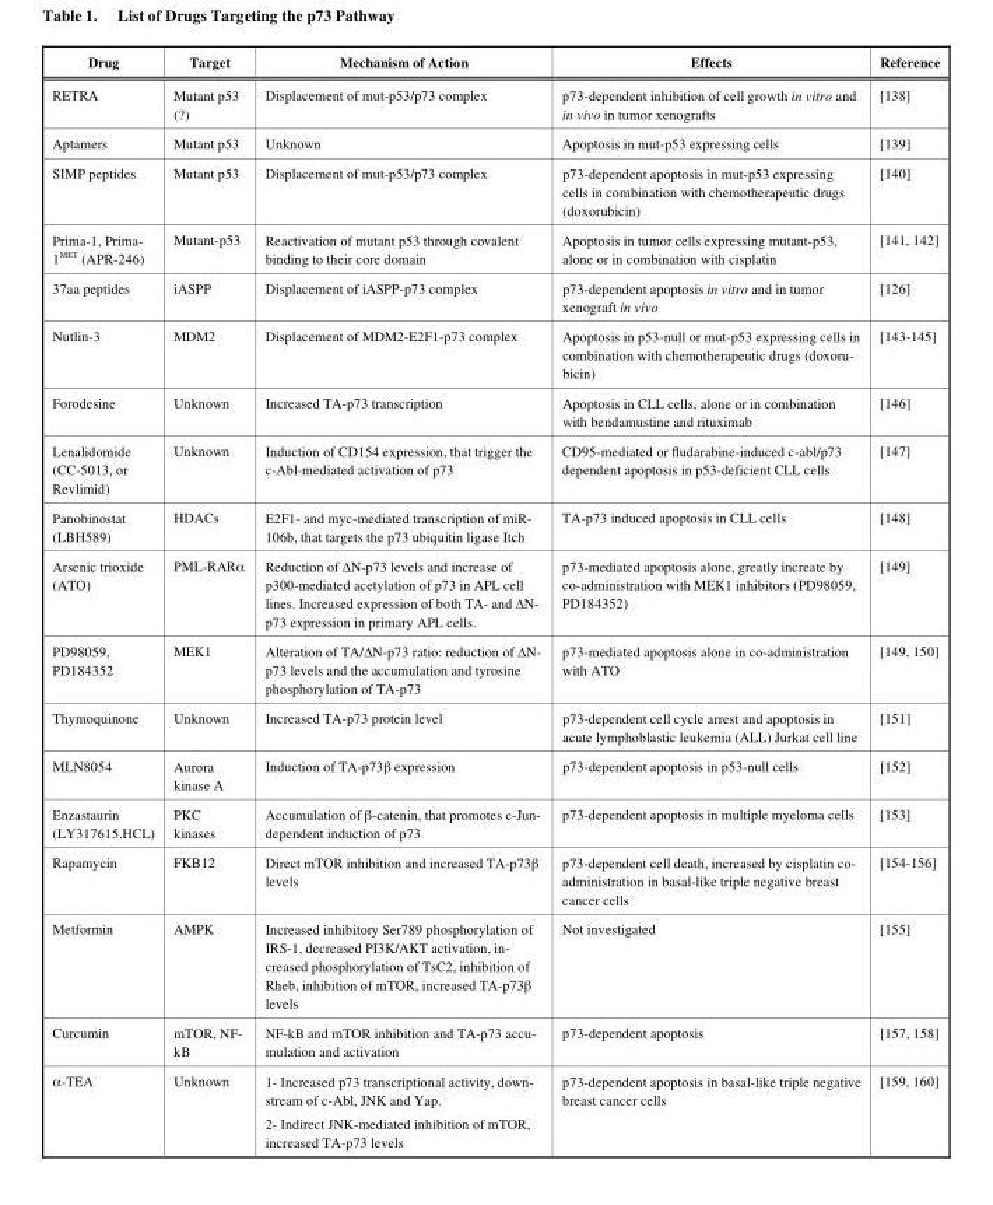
<table><thead><tr><td>Drug</td><td>Target</td><td>Mechanism of Action</td><td>Effects</td><td>Reference</td></tr></thead><tbody><tr><td>RETRA</td><td>Mutant p53 (?)</td><td>Displacement of mut-p53/p73 complex</td><td>p73-dependent inhibition of cell growth in vitro and in vivo in tumor xenografts</td><td>[138]</td></tr><tr><td>Aptamers</td><td>Mutant p53</td><td>Unknown</td><td>Apoptosis in mut-p53 expressing cells</td><td>[139]</td></tr><tr><td>SIMP peptides</td><td>Mutant p53</td><td>Displacement of mut-p53/p73 complex</td><td>p73-dependent apoptosis in mut-p53 expressing cells in combination with chemotherapeutic drugs (doxorubicin)</td><td>[140]</td></tr><tr><td>Prima-1, Prima- 1<sup>MET</sup> (APR-246)</td><td>Mutant-p53</td><td>Reactivation of mutant p53 through covalent binding to their core domain</td><td>Apoptosis in tumor cells expressing mutant-p53, alone or in combination with cisplatin</td><td>[141, 142]</td></tr><tr><td>37aa peptides</td><td>iASPP</td><td>Displacement of iASPP-p73 complex</td><td>p73-dependent apoptosis in vitro and in tumor xenograft in vivo</td><td>[126]</td></tr><tr><td>Nutlin-3</td><td>MDM2</td><td>Displacement of MDM2-E2F1-p73 complex</td><td>Apoptosis in p53-null or mut-p53 expressing cells in combination with chemotherapeutic drugs (doxoru- bicin)</td><td>[143-145]</td></tr><tr><td>Forodesine</td><td>Unknown</td><td>Increased TA-p73 transcription</td><td>Apoptosis in CLL cells, alone or in combination with bendamustine and rituximab</td><td>[146]</td></tr><tr><td>Lenalidomide (CC-5013, or Revlimid)</td><td>Unknown</td><td>Induction of CD154 expression, that trigger the c-Abl-mediated activation of p73</td><td>CD95-mediated or fludarabine-induced c-abl/p73 dependent apoptosis in p53-deficient CLL cells</td><td>[147]</td></tr><tr><td>Panobinostat (LBH589)</td><td>HDACs</td><td>E2F1- and myc-mediated transcription of miR- 106b, that targets the p73 ubiquitin ligase Itch</td><td>TA-p73 induced apoptosis in CLL cells</td><td>[148]</td></tr><tr><td>Arsenic trioxide (ATO)</td><td>PML-RARa</td><td>Reduction of ∆N-p73 levels and increase of p300-mediated acetylation of p73 in APL cell lines. Increased expression of both TA- and ∆N- p73 expression in primary APL cells.</td><td>p73-mediated apoptosis alone, greatly increate by co-administration with MEK1 inhibitors (PD98059, PD184352)</td><td>[149]</td></tr><tr><td>PD98059, PD184352</td><td>MEK1</td><td>Alteration of TA/∆N-p73 ratio: reduction of ∆N- p73 levels and the accumulation and tyrosine phosphorylation of TA-p73</td><td>p73-mediated apoptosis alone in co-administration with ATO</td><td>[149, 150]</td></tr><tr><td>Thymoquinone</td><td>Unknown</td><td>Increased TA-p73 protein level</td><td>p73-dependent cell cycle arrest and apoptosis in acute lymphoblastic leukemia (ALL) Jurkat cell line</td><td>[151]</td></tr><tr><td>MLN8054</td><td>Aurora kinase A</td><td>Induction of TA-p73β expression</td><td>p73-dependent apoptosis in p53-null cells</td><td>[152]</td></tr><tr><td>Enzastaurin (LY317615.HCL)</td><td>PKC kinases</td><td>Accumulation of β-catenin, that promotes c-Jun- dependent induction of p73</td><td>p73-dependent apoptosis in multiple myeloma cells</td><td>[153]</td></tr><tr><td>Rapamycin</td><td>FKB12</td><td>Direct mTOR inhibition and increased TA-p73β levels</td><td>p73-dependent cell death, increased by cisplatin co- administration in basal-like triple negative breast cancer cells</td><td>[154-156]</td></tr><tr><td>Metformin</td><td>AMPK</td><td>Increased inhibitory Ser789 phosphorylation of IRS-1, decreased PI3K/AKT activation, in- creased phosphorylation of TsC2, inhibition of Rheb, inhibition of mTOR, increased TA-p73� levels</td><td>Not investigated</td><td>[155]</td></tr><tr><td>Curcumin</td><td>mTOR, NF- kB</td><td>NF-kB and mTOR inhibition and TA-p73 accu- mulation and activation</td><td>p73-dependent apoptosis</td><td>[157, 158]</td></tr><tr><td>α-TEA</td><td>Unknown</td><td>1- Increased p73 transcriptional activity, down- stream of c-Abl, JNK and Yap. 2- Indirect JNK-mediated inhibition of mTOR, increased TA-p73 levels</td><td>p73-dependent apoptosis in basal-like triple negative breast cancer cells</td><td>[159, 160]</td></tr></tbody></table>